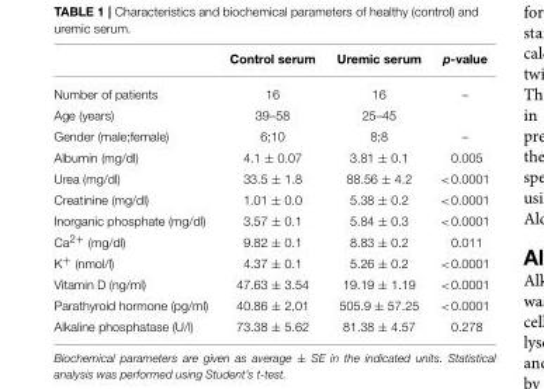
<table><thead><tr><td></td><td>Control serum</td><td>Uremic serum</td><td>p-value</td></tr></thead><tbody><tr><td>Number of patients</td><td>16</td><td>16</td><td>–</td></tr><tr><td>Age (years)</td><td>39–58</td><td>25–45</td><td></td></tr><tr><td>Gender (male;female)</td><td>6;10</td><td>8;8</td><td>–</td></tr><tr><td>Albumin (mg/dl)</td><td>4.1 ± 0.07</td><td>3.81 ± 0.1</td><td>0.005</td></tr><tr><td>Urea (mg/dl)</td><td>33.5 ± 1.8</td><td>88.56 ± 4.2</td><td>&lt;0.0001</td></tr><tr><td>Creatinine (mg/dl)</td><td>1.01 ± 0.0</td><td>5.38 ± 0.2</td><td>&lt;0.0001</td></tr><tr><td>Inorganic phosphate (mg/dl)</td><td>3.57 ± 0.1</td><td>5.84 ± 0.3</td><td>&lt;0.0001</td></tr><tr><td>Ca<sup>2+</sup> (mg/dl)</td><td>9.82 ± 0.1</td><td>8.83 ± 0.2</td><td>0.011</td></tr><tr><td>K<sup>+</sup> (nmol/l)</td><td>4.37 ± 0.1</td><td>5.26 ± 0.2</td><td>&lt;0.0001</td></tr><tr><td>Vitamin D (ng/ml)</td><td>47.63 ± 3.54</td><td>19.19 ± 1.19</td><td>&lt;0.0001</td></tr><tr><td>Parathyroid hormone (pg/ml)</td><td>40.86 ± 2,01</td><td>505.9 ± 57.25</td><td>&lt;0.0001</td></tr><tr><td>Alkaline phosphatase (U/l)</td><td>73.38 ± 5.62</td><td>81.38 ± 4.57</td><td>0.278</td></tr></tbody></table>